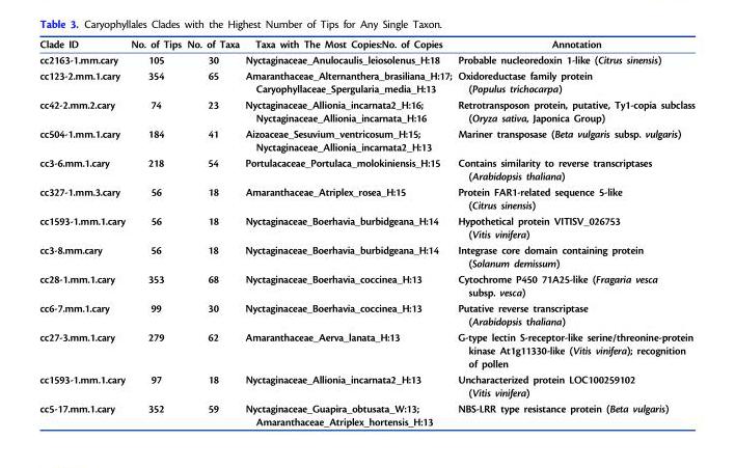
<table><thead><tr><td>Clade ID</td><td>No. of Tips</td><td>No. of Taxa</td><td>Taxa with The Most Copies:No. of Copies</td><td>Annotation</td></tr></thead><tbody><tr><td>cc2163-1.mm.cary</td><td>105</td><td>30</td><td>Nyctaginaceae_Anulocaulis_leiosolenus_H:18</td><td>Probable nucleoredoxin 1-like (Citrus sinensis)</td></tr><tr><td>cc123-2.mm.1.cary</td><td>354</td><td>65</td><td>Amaranthaceae_Alternanthera_brasiliana_H:17; Caryophyllaceae_Spergularia_media_H:13</td><td>Oxidoreductase family protein (Populus trichocarpa)</td></tr><tr><td>cc42-2.mm.2.cary</td><td>74</td><td>23</td><td>Nyctaginaceae_Allionia_incarnata2_H:16; Nyctaginaceae_Allionia_incarnata_H:16</td><td>Retrotransposon protein, putative, Ty1-copia subclass (Oryza sativa, Japonica Group)</td></tr><tr><td>cc504-1.mm.1.cary</td><td>184</td><td>41</td><td>Aizoaceae_Sesuvium_ventricosum_H:15; Nyctaginaceae_Allionia_incarnata2_H:13</td><td>Mariner transposase (Beta vulgaris subsp. vulgaris)</td></tr><tr><td>cc3-6.mm.1.cary</td><td>218</td><td>54</td><td>Portulacaceae_Portulaca_molokiniensis_H:15</td><td>Contains similarity to reverse transcriptases (Arabidopsis thaliana)</td></tr><tr><td>cc327-1.mm.3.cary</td><td>56</td><td>18</td><td>Amaranthaceae_Atriplex_rosea_H:15</td><td>Protein FAR1-related sequence 5-like (Citrus sinensis)</td></tr><tr><td>cc1593-1.mm.1.cary</td><td>56</td><td>18</td><td>Nyctaginaceae_Boerhavia_burbidgeana_H:14</td><td>Hypothetical protein VITISV_026753 (Vitis vinifera)</td></tr><tr><td>cc3-8.mm.cary</td><td>56</td><td>18</td><td>Nyctaginaceae_Boerhavia_burbidgeana_H:14</td><td>Integrase core domain containing protein (Solanum demissum)</td></tr><tr><td>cc28-1.mm.1.cary</td><td>353</td><td>68</td><td>Nyctaginaceae_Boerhavia_coccinea_H:13</td><td>Cytochrome P450 71A25-like (Fragaria vesca subsp. vesca)</td></tr><tr><td>cc6-7.mm.1.cary</td><td>99</td><td>30</td><td>Nyctaginaceae_Boerhavia_coccinea_H:13</td><td>Putative reverse transcriptase (Arabidopsis thaliana)</td></tr><tr><td>cc27-3.mm.1.cary</td><td>279</td><td>62</td><td>Amaranthaceae_Aerva_lanata_H:13</td><td>G-type lectin S-receptor-like serine/threonine-protein kinase At1g11330-like (Vitis vinifera); recognition of pollen</td></tr><tr><td>cc1593-1.mm.1.cary</td><td>97</td><td>18</td><td>Nyctaginaceae_Allionia_incarnata2_H:13</td><td>Uncharacterized protein LOC100259102 (Vitis vinifera)</td></tr><tr><td>cc5-17.mm.1.cary</td><td>352</td><td>59</td><td>Nyctaginaceae_Guapira_obtusata_W:13; Amaranthaceae_Atriplex_hortensis_H:13</td><td>NBS-LRR type resistance protein (Beta vulgaris)</td></tr></tbody></table>